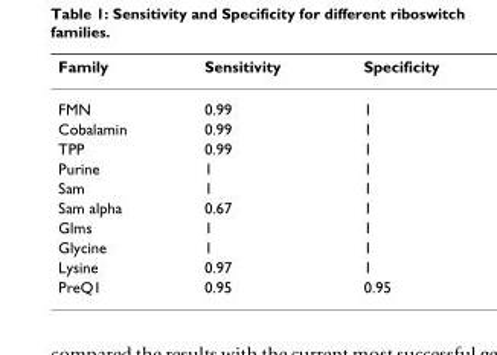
<table><thead><tr><td>Family</td><td>Sensitivity</td><td>Specificity</td></tr></thead><tbody><tr><td>FMN</td><td>0.99</td><td>1</td></tr><tr><td>Cobalamin</td><td>0.99</td><td>1</td></tr><tr><td>TPP</td><td>0.99</td><td>1</td></tr><tr><td>Purine</td><td>1</td><td>1</td></tr><tr><td>Sam</td><td>1</td><td>1</td></tr><tr><td>Sam alpha</td><td>0.67</td><td>1</td></tr><tr><td>Glms</td><td>1</td><td>1</td></tr><tr><td>Glycine</td><td>1</td><td>1</td></tr><tr><td>Lysine</td><td>0.97</td><td>1</td></tr><tr><td>PreQ1</td><td>0.95</td><td>0.95</td></tr></tbody></table>